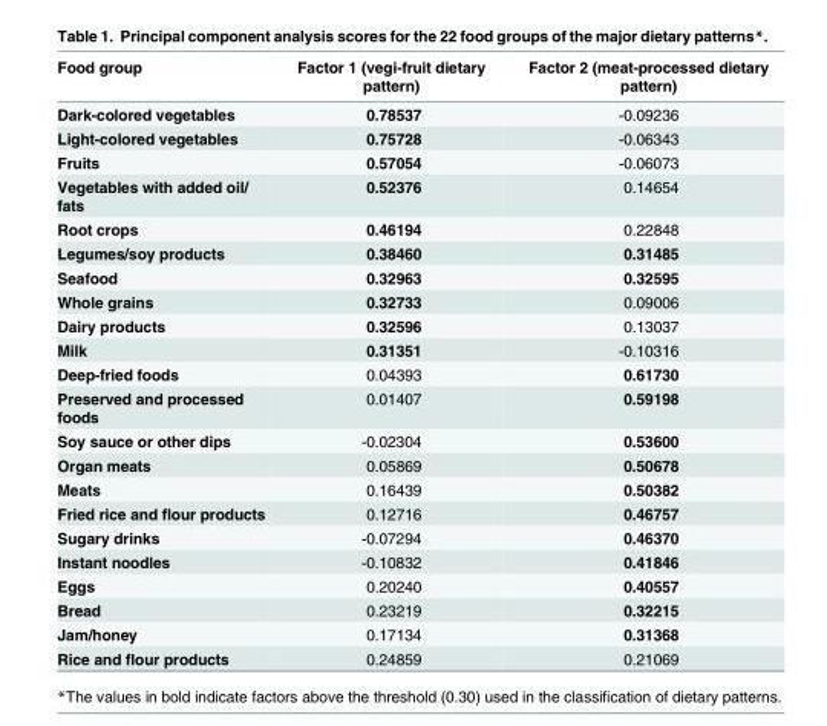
<table><thead><tr><td>Food group</td><td>Factor 1 (vegi-fruit dietary pattern)</td><td>Factor 2 (meat-processed dietary pattern)</td></tr></thead><tbody><tr><td>Dark-colored vegetables</td><td>0.78537</td><td>-0.09236</td></tr><tr><td>Light-colored vegetables</td><td>0.75728</td><td>-0.06343</td></tr><tr><td>Fruits</td><td>0.57054</td><td>-0.06073</td></tr><tr><td>Vegetables with added oil/ fats</td><td>0.52376</td><td>0.14654</td></tr><tr><td>Root crops</td><td>0.46194</td><td>0.22848</td></tr><tr><td>Legumes/soy products</td><td>0.38460</td><td>0.31485</td></tr><tr><td>Seafood</td><td>0.32963</td><td>0.32595</td></tr><tr><td>Whole grains</td><td>0.32733</td><td>0.09006</td></tr><tr><td>Dairy products</td><td>0.32596</td><td>0.13037</td></tr><tr><td>Milk</td><td>0.31351</td><td>-0.10316</td></tr><tr><td>Deep-fried foods</td><td>0.04393</td><td>0.61730</td></tr><tr><td>Preserved and processed foods</td><td>0.01407</td><td>0.59198</td></tr><tr><td>Soy sauce or other dips</td><td>-0.02304</td><td>0.53600</td></tr><tr><td>Organ meats</td><td>0.05869</td><td>0.50678</td></tr><tr><td>Meats</td><td>0.16439</td><td>0.50382</td></tr><tr><td>Fried rice and flour products</td><td>0.12716</td><td>0.46757</td></tr><tr><td>Sugary drinks</td><td>-0.07294</td><td>0.46370</td></tr><tr><td>Instant noodles</td><td>-0.10832</td><td>0.41846</td></tr><tr><td>Eggs</td><td>0.20240</td><td>0.40557</td></tr><tr><td>Bread</td><td>0.23219</td><td>0.32215</td></tr><tr><td>Jam/honey</td><td>0.17134</td><td>0.31368</td></tr><tr><td>Rice and flour products</td><td>0.24859</td><td>0.21069</td></tr></tbody></table>